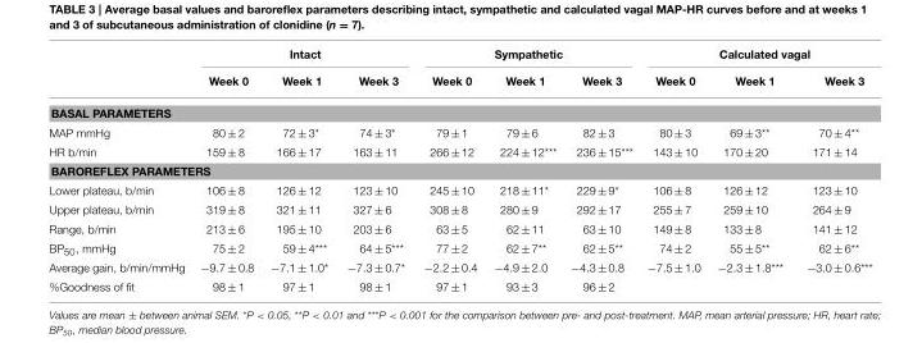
<table><thead><tr><td rowspan="2"></td><td colspan="3">Intact</td><td colspan="3">Sympathetic</td><td colspan="3">Calculated vagal</td></tr><tr><td>Week 0</td><td>Week 1</td><td>Week 3</td><td>Week 0</td><td>Week 1</td><td>Week 3</td><td>Week 0</td><td>Week 1</td><td>Week 3</td></tr></thead><tbody><tr><td colspan="10">BASAL PARAMETERS</td></tr><tr><td>MAP mmHg</td><td>80 ± 2</td><td>72 ± 3*</td><td>74 ± 3*</td><td>79 ± 1</td><td>79 ± 6</td><td>82 ± 3</td><td>80 ± 3</td><td>69 ± 3**</td><td>70 ± 4**</td></tr><tr><td>HR b/min</td><td>159 ± 8</td><td>166 ± 17</td><td>163 ± 11</td><td>266 ± 12</td><td>224 ± 12***</td><td>236 ± 15***</td><td>143 ± 10</td><td>170 ± 20</td><td>171 ± 14</td></tr><tr><td colspan="10">BAROREFLEX PARAMETERS</td></tr><tr><td>Lower plateau, b/min</td><td>106 ± 8</td><td>126 ± 12</td><td>123 ± 10</td><td>245 ± 10</td><td>218 ± 11*</td><td>229 ± 9*</td><td>106 ± 8</td><td>126 ± 12</td><td>123 ± 10</td></tr><tr><td>Upper plateau, b/min</td><td>319 ± 8</td><td>321 ± 11</td><td>327 ± 6</td><td>308 ± 8</td><td>280 ± 9</td><td>292 ± 17</td><td>255 ± 7</td><td>259 ± 10</td><td>264 ± 9</td></tr><tr><td>Range, b/min</td><td>213 ± 6</td><td>195 ± 10</td><td>203 ± 6</td><td>63 ± 5</td><td>62 ± 11</td><td>63 ± 10</td><td>149 ± 8</td><td>133 ± 8</td><td>141 ± 12</td></tr><tr><td>BP<sub>50</sub>, mmHg</td><td>75 ± 2</td><td>59 ± 4***</td><td>64 ± 5***</td><td>77 ± 2</td><td>62 ± 7**</td><td>62 ± 5**</td><td>74 ± 2</td><td>55 ± 5**</td><td>62 ± 6**</td></tr><tr><td>Average gain, b/min/mmHg</td><td>−9.7 ± 0.8</td><td>−7.1 ± 1.0*</td><td>−7.3 ± 0.7*</td><td>−2.2 ± 0.4</td><td>−4.9 ± 2.0</td><td>−4.3 ± 0.8</td><td>−7.5 ± 1.0</td><td>−2.3 ± 1.8***</td><td>−3.0 ± 0.6***</td></tr><tr><td>%Goodness of fit</td><td>98 ± 1</td><td>97 ± 1</td><td>98 ± 1</td><td>97 ± 1</td><td>93 ± 3</td><td>96 ± 2</td><td></td><td></td><td></td></tr></tbody></table>